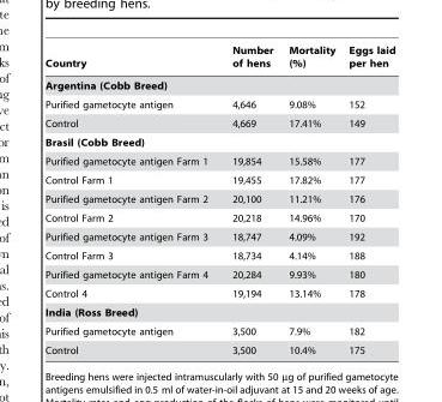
<table><thead><tr><td>Country</td><td>Number of hens</td><td>Mortality (%)</td><td>Eggs laid per hen</td></tr></thead><tbody><tr><td colspan="4">Argentina (Cobb Breed)</td></tr><tr><td>Purified gametocyte antigen</td><td>4,646</td><td>9.08%</td><td>152</td></tr><tr><td>Control</td><td>4,669</td><td>17.41%</td><td>149</td></tr><tr><td colspan="4">Brasil (Cobb Breed)</td></tr><tr><td>Purified gametocyte antigen Farm 1</td><td>19,854</td><td>15.58%</td><td>177</td></tr><tr><td>Control Farm 1</td><td>19,455</td><td>17.82%</td><td>177</td></tr><tr><td>Purified gametocyte antigen Farm 2</td><td>20,100</td><td>11.21%</td><td>176</td></tr><tr><td>Control Farm 2</td><td>20,218</td><td>14.96%</td><td>170</td></tr><tr><td>Purified gametocyte antigen Farm 3</td><td>18,747</td><td>4.09%</td><td>192</td></tr><tr><td>Control Farm 3</td><td>18,734</td><td>4.14%</td><td>188</td></tr><tr><td>Purified gametocyte antigen Farm 4</td><td>20,284</td><td>9.93%</td><td>180</td></tr><tr><td>Control 4</td><td>19,194</td><td>13.14%</td><td>178</td></tr><tr><td colspan="4">India (Ross Breed)</td></tr><tr><td>Purified gametocyte antigen</td><td>3,500</td><td>7.9%</td><td>182</td></tr><tr><td>Control</td><td>3,500</td><td>10.4%</td><td>175</td></tr></tbody></table>